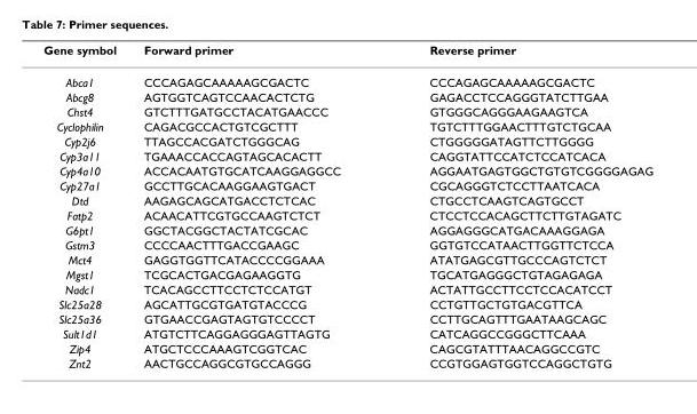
<table><thead><tr><td>Gene symbol</td><td>Forward primer</td><td>Reverse primer</td></tr></thead><tbody><tr><td>Abca1</td><td>CCCAGAGCAAAAAGCGACTC</td><td>CCCAGAGCAAAAAGCGACTC</td></tr><tr><td>Abcg8</td><td>AGTGGTCAGTCCAACACTCTG</td><td>GAGACCTCCAGGGTATCTTGAA</td></tr><tr><td>Chst4</td><td>GTCTTTGATGCCTACATGAACCC</td><td>GTGGGCAGGGAAGAAGTCA</td></tr><tr><td>Cyclophilin</td><td>CAGACGCCACTGTCGCTTT</td><td>TGTCTTTGGAACTTTGTCTGCAA</td></tr><tr><td>Cyp2j6</td><td>TTAGCCACGATCTGGGCAG</td><td>CTGGGGGATAGTTCTTGGGG</td></tr><tr><td>Cyp3a11</td><td>TGAAACCACCAGTAGCACACTT</td><td>CAGGTATTCCATCTCCATCACA</td></tr><tr><td>Cyp4a10</td><td>ACCACAATGTGCATCAAGGAGGCC</td><td>AGGAATGAGTGGCTGTGTCGGGGAGAG</td></tr><tr><td>Cyp27a1</td><td>GCCTTGCACAAGGAAGTGACT</td><td>CGCAGGGTCTCCTTAATCACA</td></tr><tr><td>Dtd</td><td>AAGAGCAGCATGACCTCTCAC</td><td>CTGCCTCAAGTCAGTGCCT</td></tr><tr><td>Fatp2</td><td>ACAACATTCGTGCCAAGTCTCT</td><td>CTCCTCCACAGCTTCTTGTAGATC</td></tr><tr><td>G6pt1</td><td>GGCTACGGCTACTATCGCAC</td><td>AGGAGGGCATGACAAAGGAGA</td></tr><tr><td>Gstm3</td><td>CCCCAACTTTGACCGAAGC</td><td>GGTGTCCATAACTTGGTTCTCCA</td></tr><tr><td>Mct4</td><td>GAGGTGGTTCATACCCCGGAAA</td><td>ATATGAGCGTTGCCCAGTCTCT</td></tr><tr><td>Mgst1</td><td>TCGCACTGACGAGAAGGTG</td><td>TGCATGAGGGCTGTAGAGAGA</td></tr><tr><td>Nadc1</td><td>TCACAGCCTTCCTCTCCATGT</td><td>ACTATTGCCTTCCTCCACATCCT</td></tr><tr><td>Slc25a28</td><td>AGCATTGCGTGATGTACCCG</td><td>CCTGTTGCTGTGACGTTCA</td></tr><tr><td>Slc25a36</td><td>GTGAACCGAGTAGTGTCCCCT</td><td>CCTTGCAGTTTGAATAAGCAGC</td></tr><tr><td>Sult1d1</td><td>ATGTCTTCAGGAGGGAGTTAGTG</td><td>CATCAGGCCGGGCTTCAAA</td></tr><tr><td>Zip4</td><td>ATGCTCCCAAAGTCGGTCAC</td><td>CAGCGTATTTAACAGGCCGTC</td></tr><tr><td>Znt2</td><td>AACTGCCAGGCGTGCCAGGG</td><td>CCGTGGAGTGGTCCAGGCTGTG</td></tr></tbody></table>